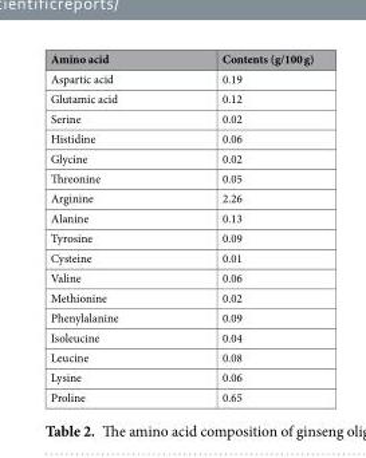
<table><thead><tr><td>Amino acid</td><td>Contents (g/100 g)</td></tr></thead><tbody><tr><td>Aspartic acid</td><td>0.19</td></tr><tr><td>Glutamic acid</td><td>0.12</td></tr><tr><td>Serine</td><td>0.02</td></tr><tr><td>Histidine</td><td>0.06</td></tr><tr><td>Glycine</td><td>0.02</td></tr><tr><td>Threonine</td><td>0.05</td></tr><tr><td>Arginine</td><td>2.26</td></tr><tr><td>Alanine</td><td>0.13</td></tr><tr><td>Tyrosine</td><td>0.09</td></tr><tr><td>Cysteine</td><td>0.01</td></tr><tr><td>Valine</td><td>0.06</td></tr><tr><td>Methionine</td><td>0.02</td></tr><tr><td>Phenylalanine</td><td>0.09</td></tr><tr><td>Isoleucine</td><td>0.04</td></tr><tr><td>Leucine</td><td>0.08</td></tr><tr><td>Lysine</td><td>0.06</td></tr><tr><td>Proline</td><td>0.65</td></tr></tbody></table>